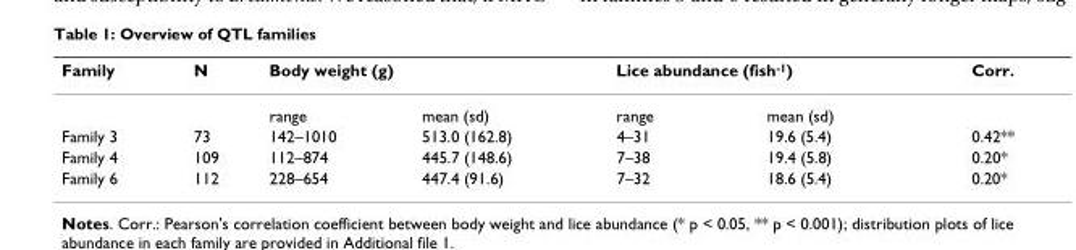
<table><thead><tr><td rowspan="2">Family</td><td rowspan="2">N</td><td colspan="2">Body weight (g)</td><td colspan="2">Lice abundance (fish<sup>-1</sup>)</td><td rowspan="2">Corr.</td></tr><tr><td>range</td><td>mean (sd)</td><td>range</td><td>mean (sd)</td></tr></thead><tbody><tr><td>Family 3</td><td>73</td><td>142–1010</td><td>513.0 (162.8)</td><td>4–31</td><td>19.6 (5.4)</td><td>0.42**</td></tr><tr><td>Family 4</td><td>109</td><td>112–874</td><td>445.7 (148.6)</td><td>7–38</td><td>19.4 (5.8)</td><td>0.20*</td></tr><tr><td>Family 6</td><td>112</td><td>228–654</td><td>447.4 (91.6)</td><td>7–32</td><td>18.6 (5.4)</td><td>0.20*</td></tr></tbody></table>